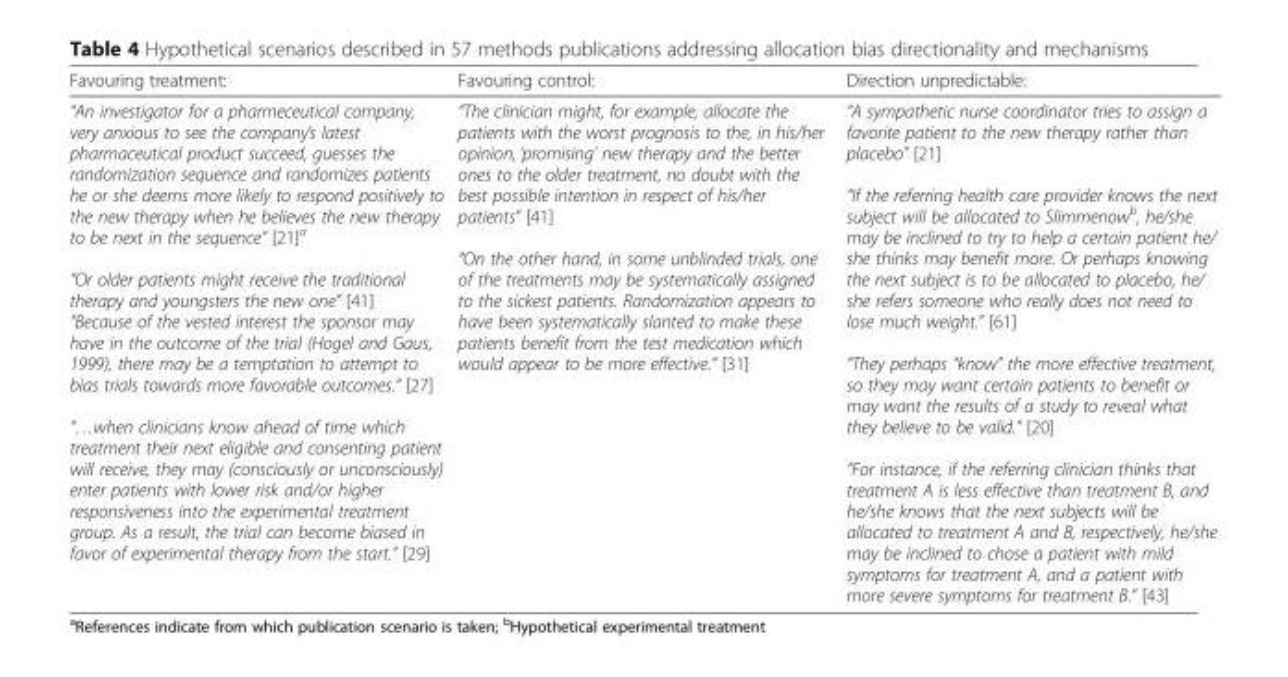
<table><thead><tr><td>Favouring treatment:</td><td>Favouring control:</td><td>Direction unpredictable:</td></tr></thead><tbody><tr><td>“An investigator for a pharmeceutical company, very anxious to see the company’s latest pharmaceutical product succeed, guesses the randomization sequence and randomizes patients he or she deems more likely to respond positively to the new therapy when he believes the new therapy to be next in the sequence” [21]<sup>a</sup> “Or older patients might receive the traditional therapy and youngsters the new one” [41] “Because of the vested interest the sponsor may have in the outcome of the trial (Hogel and Gaus, 1999), there may be a temptation to attempt to bias trials towards more favorable outcomes.“ [27] “…when clinicians know ahead of time which treatment their next eligible and consenting patient will receive, they may (consciously or unconsciously) enter patients with lower risk and/or higher responsiveness into the experimental treatment group. As a result, the trial can become biased in favor of experimental therapy from the start.” [29]</td><td>“The clinician might, for example, allocate the patients with the worst prognosis to the, in his/her opinion, ‘promising’ new therapy and the better ones to the older treatment, no doubt with the best possible intention in respect of his/her patients” [41] “On the other hand, in some unblinded trials, one of the treatments may be systematically assigned to the sickest patients. Randomization appears to have been systematically slanted to make these patients benefit from the test medication which would appear to be more effective.” [31]</td><td>“A sympathetic nurse coordinator tries to assign a favorite patient to the new therapy rather than placebo” [21] “If the referring health care provider knows the next subject will be allocated to Slimmenow<sup>b</sup>, he/she may be inclined to try to help a certain patient he/ she thinks may benefit more. Or perhaps knowing the next subject is to be allocated to placebo, he/ she refers someone who really does not need to lose much weight.” [61] “They perhaps “know” the more effective treatment, so they may want certain patients to benefit or may want the results of a study to reveal what they believe to be valid.” [20] “For instance, if the referring clinician thinks that treatment A is less effective than treatment B, and he/she knows that the next subjects will be allocated to treatment A and B, respectively, he/she may be inclined to chose a patient with mild symptoms for treatment A, and a patient with more severe symptoms for treatment B.” [43]</td></tr></tbody></table>